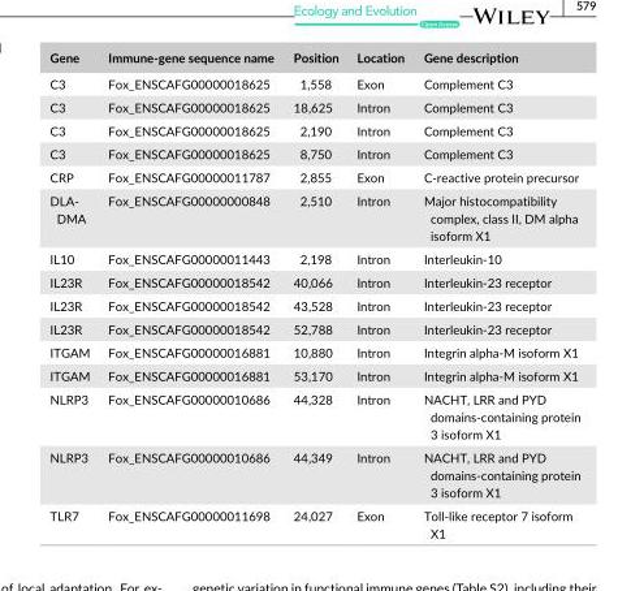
<table><thead><tr><td>Gene</td><td>Immune- gene sequence name</td><td>Position</td><td>Location</td><td>Gene description</td></tr></thead><tbody><tr><td>C3</td><td>Fox_ENSCAFG00000018625</td><td>1,558</td><td>Exon</td><td>Complement C3</td></tr><tr><td>C3</td><td>Fox_ENSCAFG00000018625</td><td>18,625</td><td>Intron</td><td>Complement C3</td></tr><tr><td>C3</td><td>Fox_ENSCAFG00000018625</td><td>2,190</td><td>Intron</td><td>Complement C3</td></tr><tr><td>C3</td><td>Fox_ENSCAFG00000018625</td><td>8,750</td><td>Intron</td><td>Complement C3</td></tr><tr><td>CRP</td><td>Fox_ENSCAFG00000011787</td><td>2,855</td><td>Exon</td><td>C- reactive protein precursor</td></tr><tr><td>DLA- DMA</td><td>Fox_ENSCAFG00000000848</td><td>2,510</td><td>Intron</td><td>Major histocompatibility complex, class II, DM alpha isoform X1</td></tr><tr><td>IL10</td><td>Fox_ENSCAFG00000011443</td><td>2,198</td><td>Intron</td><td>Interleukin- 10</td></tr><tr><td>IL23R</td><td>Fox_ENSCAFG00000018542</td><td>40,066</td><td>Intron</td><td>Interleukin- 23 receptor</td></tr><tr><td>IL23R</td><td>Fox_ENSCAFG00000018542</td><td>43,528</td><td>Intron</td><td>Interleukin- 23 receptor</td></tr><tr><td>IL23R</td><td>Fox_ENSCAFG00000018542</td><td>52,788</td><td>Intron</td><td>Interleukin- 23 receptor</td></tr><tr><td>ITGAM</td><td>Fox_ENSCAFG00000016881</td><td>10,880</td><td>Intron</td><td>Integrin alpha- M isoform X1</td></tr><tr><td>ITGAM</td><td>Fox_ENSCAFG00000016881</td><td>53,170</td><td>Intron</td><td>Integrin alpha- M isoform X1</td></tr><tr><td>NLRP3</td><td>Fox_ENSCAFG00000010686</td><td>44,328</td><td>Intron</td><td>NACHT, LRR and PYD domains- containing protein 3 isoform X1</td></tr><tr><td>NLRP3</td><td>Fox_ENSCAFG00000010686</td><td>44,349</td><td>Intron</td><td>NACHT, LRR and PYD domains- containing protein 3 isoform X1</td></tr><tr><td>TLR7</td><td>Fox_ENSCAFG00000011698</td><td>24,027</td><td>Exon</td><td>Toll- like receptor 7 isoform X1</td></tr></tbody></table>